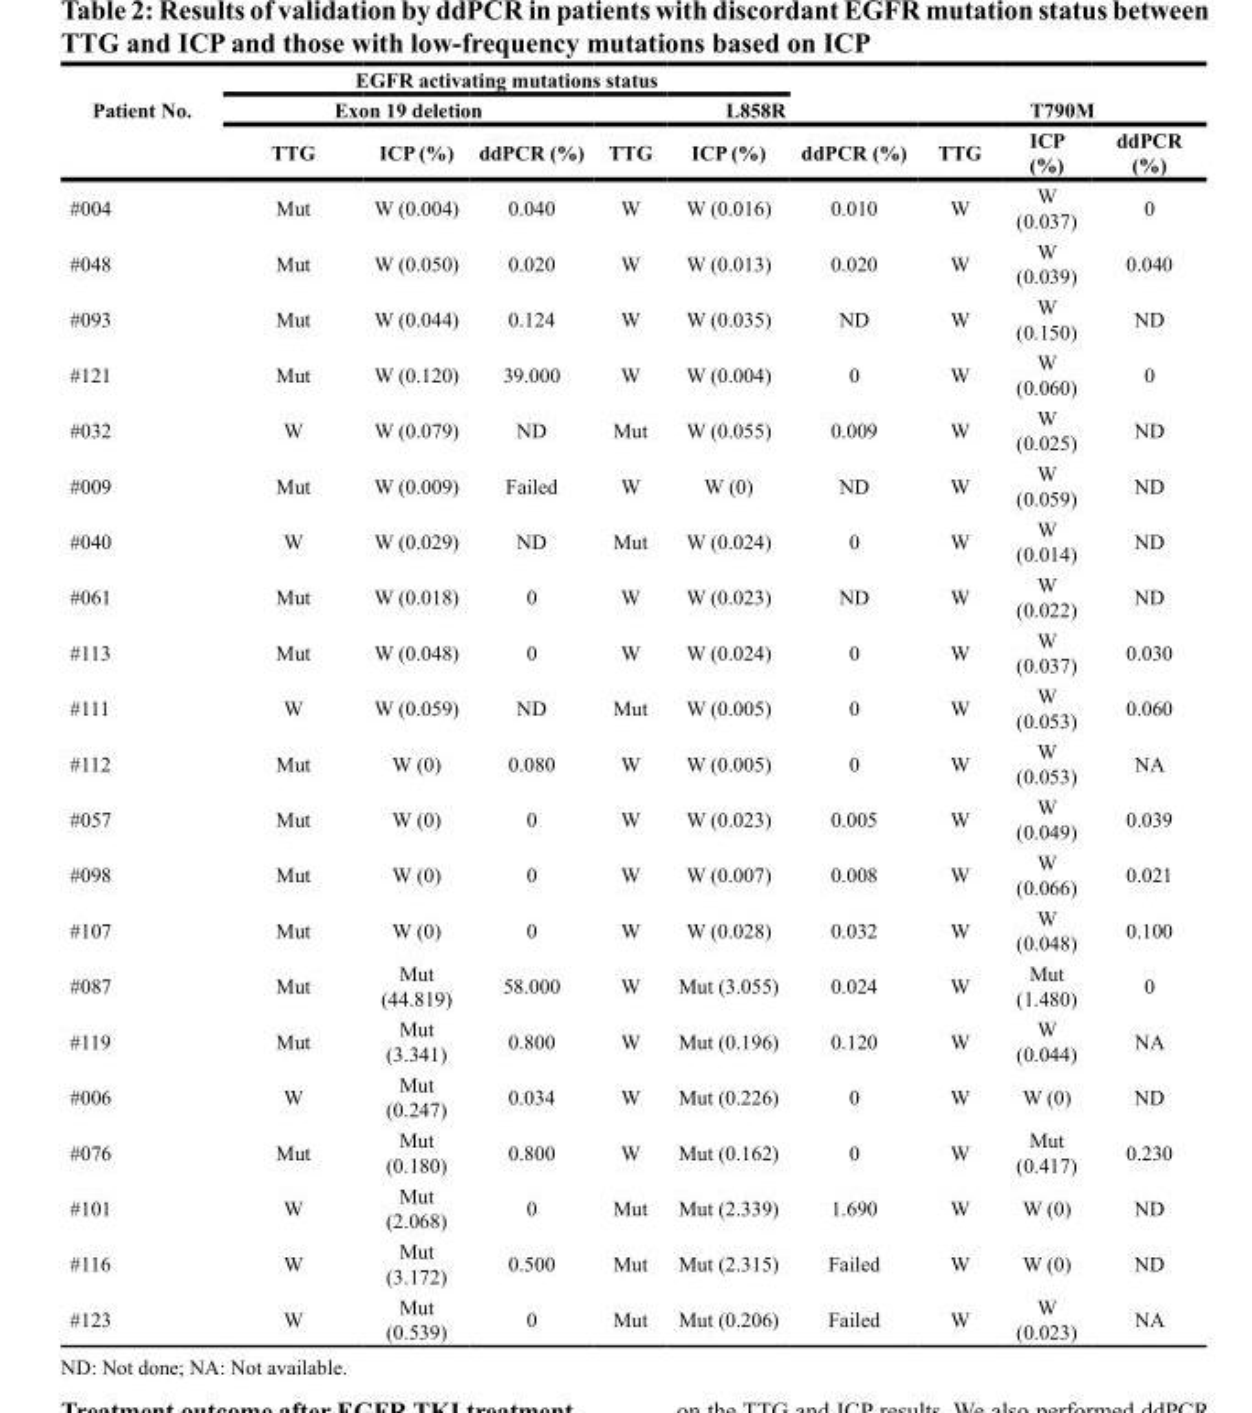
<table><thead><tr><td rowspan="3">Patient No.</td><td colspan="5">EGFR activating mutations status</td><td></td><td></td><td></td><td></td></tr><tr><td colspan="3">Exon 19 deletion</td><td colspan="3">L858R</td><td colspan="3">T790M</td></tr><tr><td>TTG</td><td>ICP (%)</td><td>ddPCR (%)</td><td>TTG</td><td>ICP (%)</td><td>ddPCR (%)</td><td>TTG</td><td>ICP (%)</td><td>ddPCR (%)</td></tr></thead><tbody><tr><td>#004</td><td>Mut</td><td>W (0.004)</td><td>0.040</td><td>W</td><td>W (0.016)</td><td>0.010</td><td>W</td><td>W (0.037)</td><td>0</td></tr><tr><td>#048</td><td>Mut</td><td>W (0.050)</td><td>0.020</td><td>W</td><td>W (0.013)</td><td>0.020</td><td>W</td><td>W (0.039)</td><td>0.040</td></tr><tr><td>#093</td><td>Mut</td><td>W (0.044)</td><td>0.124</td><td>W</td><td>W (0.035)</td><td>ND</td><td>W</td><td>W (0.150)</td><td>ND</td></tr><tr><td>#121</td><td>Mut</td><td>W (0.120)</td><td>39.000</td><td>W</td><td>W (0.004)</td><td>0</td><td>W</td><td>W (0.060)</td><td>0</td></tr><tr><td>#032</td><td>W</td><td>W (0.079)</td><td>ND</td><td>Mut</td><td>W (0.055)</td><td>0.009</td><td>W</td><td>W (0.025)</td><td>ND</td></tr><tr><td>#009</td><td>Mut</td><td>W (0.009)</td><td>Failed</td><td>W</td><td>W (0)</td><td>ND</td><td>W</td><td>W (0.059)</td><td>ND</td></tr><tr><td>#040</td><td>W</td><td>W (0.029)</td><td>ND</td><td>Mut</td><td>W (0.024)</td><td>0</td><td>W</td><td>W (0.014)</td><td>ND</td></tr><tr><td>#061</td><td>Mut</td><td>W (0.018)</td><td>0</td><td>W</td><td>W (0.023)</td><td>ND</td><td>W</td><td>W (0.022)</td><td>ND</td></tr><tr><td>#113</td><td>Mut</td><td>W (0.048)</td><td>0</td><td>W</td><td>W (0.024)</td><td>0</td><td>W</td><td>W (0.037)</td><td>0.030</td></tr><tr><td>#111</td><td>W</td><td>W (0.059)</td><td>ND</td><td>Mut</td><td>W (0.005)</td><td>0</td><td>W</td><td>W (0.053)</td><td>0.060</td></tr><tr><td>#112</td><td>Mut</td><td>W (0)</td><td>0.080</td><td>W</td><td>W (0.005)</td><td>0</td><td>W</td><td>W (0.053)</td><td>NA</td></tr><tr><td>#057</td><td>Mut</td><td>W (0)</td><td>0</td><td>W</td><td>W (0.023)</td><td>0.005</td><td>W</td><td>W (0.049)</td><td>0.039</td></tr><tr><td>#098</td><td>Mut</td><td>W (0)</td><td>0</td><td>W</td><td>W (0.007)</td><td>0.008</td><td>W</td><td>W (0.066)</td><td>0.021</td></tr><tr><td>#107</td><td>Mut</td><td>W (0)</td><td>0</td><td>W</td><td>W (0.028)</td><td>0.032</td><td>W</td><td>W (0.048)</td><td>0.100</td></tr><tr><td>#087</td><td>Mut</td><td>Mut (44.819)</td><td>58.000</td><td>W</td><td>Mut (3.055)</td><td>0.024</td><td>W</td><td>Mut (1.480)</td><td>0</td></tr><tr><td>#119</td><td>Mut</td><td>Mut (3.341)</td><td>0.800</td><td>W</td><td>Mut (0.196)</td><td>0.120</td><td>W</td><td>W (0.044)</td><td>NA</td></tr><tr><td>#006</td><td>W</td><td>Mut (0.247)</td><td>0.034</td><td>W</td><td>Mut (0.226)</td><td>0</td><td>W</td><td>W (0)</td><td>ND</td></tr><tr><td>#076</td><td>Mut</td><td>Mut (0.180)</td><td>0.800</td><td>W</td><td>Mut (0.162)</td><td>0</td><td>W</td><td>Mut (0.417)</td><td>0.230</td></tr><tr><td>#101</td><td>W</td><td>Mut (2.068)</td><td>0</td><td>Mut</td><td>Mut (2.339)</td><td>1.690</td><td>W</td><td>W (0)</td><td>ND</td></tr><tr><td>#116</td><td>W</td><td>Mut (3.172)</td><td>0.500</td><td>Mut</td><td>Mut (2.315)</td><td>Failed</td><td>W</td><td>W (0)</td><td>ND</td></tr><tr><td>#123</td><td>W</td><td>Mut (0.539)</td><td>0</td><td>Mut</td><td>Mut (0.206)</td><td>Failed</td><td>W</td><td>W (0.023)</td><td>NA</td></tr></tbody></table>